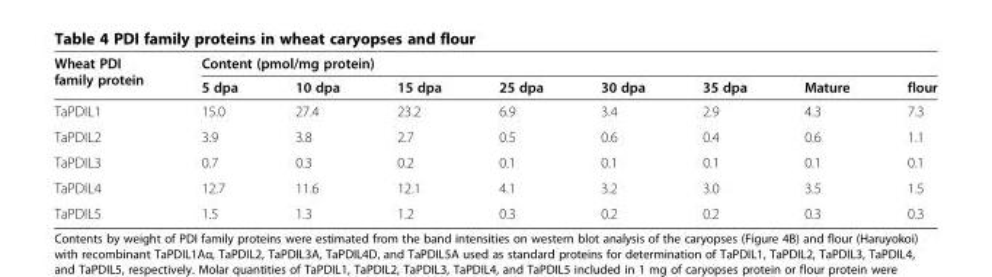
<table><thead><tr><td rowspan="2">Wheat PDI family protein</td><td colspan="8">Content (pmol/mg protein)</td></tr><tr><td>5 dpa</td><td>10 dpa</td><td>15 dpa</td><td>25 dpa</td><td>30 dpa</td><td>35 dpa</td><td>Mature</td><td>flour</td></tr></thead><tbody><tr><td>TaPDIL1</td><td>15.0</td><td>27.4</td><td>23.2</td><td>6.9</td><td>3.4</td><td>2.9</td><td>4.3</td><td>7.3</td></tr><tr><td>TaPDIL2</td><td>3.9</td><td>3.8</td><td>2.7</td><td>0.5</td><td>0.6</td><td>0.4</td><td>0.6</td><td>1.1</td></tr><tr><td>TaPDIL3</td><td>0.7</td><td>0.3</td><td>0.2</td><td>0.1</td><td>0.1</td><td>0.1</td><td>0.1</td><td>0.1</td></tr><tr><td>TaPDIL4</td><td>12.7</td><td>11.6</td><td>12.1</td><td>4.1</td><td>3.2</td><td>3.0</td><td>3.5</td><td>1.5</td></tr><tr><td>TaPDIL5</td><td>1.5</td><td>1.3</td><td>1.2</td><td>0.3</td><td>0.2</td><td>0.2</td><td>0.3</td><td>0.3</td></tr></tbody></table>